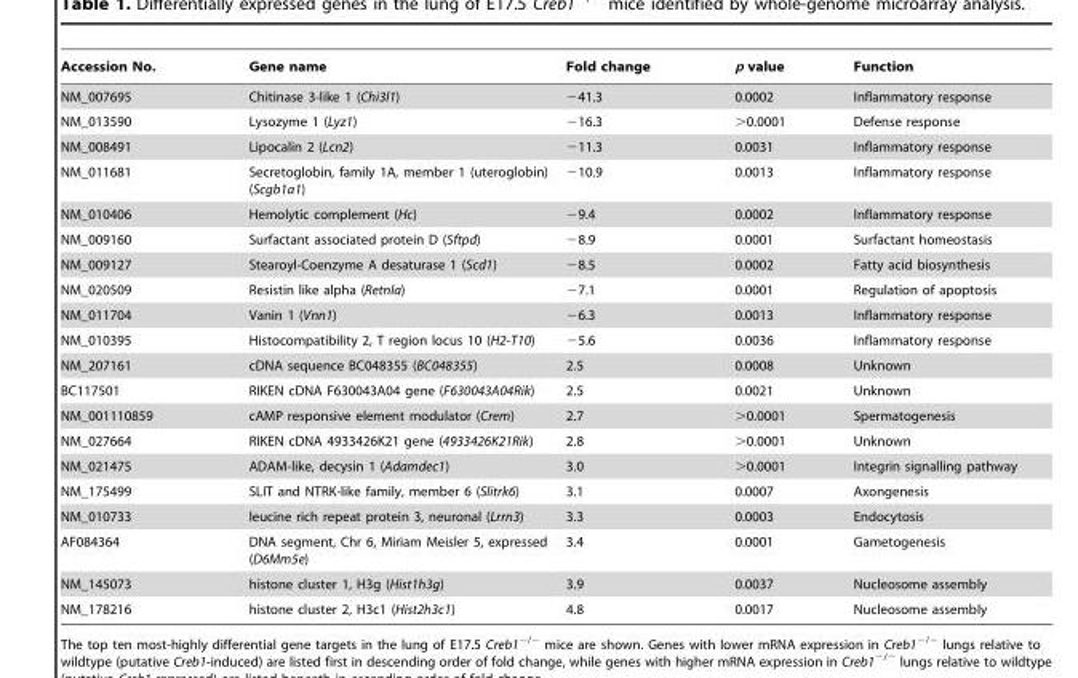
<table><thead><tr><td>Accession No.</td><td>Gene name</td><td>Fold change</td><td>p value</td><td>Function</td></tr></thead><tbody><tr><td>NM_007695</td><td>Chitinase 3-like 1 (Chi3l1)</td><td>−41.3</td><td>0.0002</td><td>Inflammatory response</td></tr><tr><td>NM_013590</td><td>Lysozyme 1 (Lyz1)</td><td>−16.3</td><td>&gt;0.0001</td><td>Defense response</td></tr><tr><td>NM_008491</td><td>Lipocalin 2 (Lcn2)</td><td>−11.3</td><td>0.0031</td><td>Inflammatory response</td></tr><tr><td>NM_011681</td><td>Secretoglobin, family 1A, member 1 (uteroglobin) (Scgb1a1)</td><td>−10.9</td><td>0.0013</td><td>Inflammatory response</td></tr><tr><td>NM_010406</td><td>Hemolytic complement (Hc)</td><td>−9.4</td><td>0.0002</td><td>Inflammatory response</td></tr><tr><td>NM_009160</td><td>Surfactant associated protein D (Sftpd)</td><td>−8.9</td><td>0.0001</td><td>Surfactant homeostasis</td></tr><tr><td>NM_009127</td><td>Stearoyl-Coenzyme A desaturase 1 (Scd1)</td><td>−8.5</td><td>0.0002</td><td>Fatty acid biosynthesis</td></tr><tr><td>NM_020509</td><td>Resistin like alpha (Retnla)</td><td>−7.1</td><td>0.0001</td><td>Regulation of apoptosis</td></tr><tr><td>NM_011704</td><td>Vanin 1 (Vnn1)</td><td>−6.3</td><td>0.0013</td><td>Inflammatory response</td></tr><tr><td>NM_010395</td><td>Histocompatibility 2, T region locus 10 (H2-T10)</td><td>−5.6</td><td>0.0036</td><td>Inflammatory response</td></tr><tr><td>NM_207161</td><td>cDNA sequence BC048355 (BC048355)</td><td>2.5</td><td>0.0008</td><td>Unknown</td></tr><tr><td>BC117501</td><td>RIKEN cDNA F630043A04 gene (F630043A04Rik)</td><td>2.5</td><td>0.0021</td><td>Unknown</td></tr><tr><td>NM_001110859</td><td>cAMP responsive element modulator (Crem)</td><td>2.7</td><td>&gt;0.0001</td><td>Spermatogenesis</td></tr><tr><td>NM_027664</td><td>RIKEN cDNA 4933426K21 gene (4933426K21Rik)</td><td>2.8</td><td>&gt;0.0001</td><td>Unknown</td></tr><tr><td>NM_021475</td><td>ADAM-like, decysin 1 (Adamdec1)</td><td>3.0</td><td>&gt;0.0001</td><td>Integrin signalling pathway</td></tr><tr><td>NM_175499</td><td>SLIT and NTRK-like family, member 6 (Slitrk6)</td><td>3.1</td><td>0.0007</td><td>Axongenesis</td></tr><tr><td>NM_010733</td><td>leucine rich repeat protein 3, neuronal (Lrrn3)</td><td>3.3</td><td>0.0003</td><td>Endocytosis</td></tr><tr><td>AF084364</td><td>DNA segment, Chr 6, Miriam Meisler 5, expressed (D6Mm5e)</td><td>3.4</td><td>0.0001</td><td>Gametogenesis</td></tr><tr><td>NM_145073</td><td>histone cluster 1, H3g (Hist1h3g)</td><td>3.9</td><td>0.0037</td><td>Nucleosome assembly</td></tr><tr><td>NM_178216</td><td>histone cluster 2, H3c1 (Hist2h3c1)</td><td>4.8</td><td>0.0017</td><td>Nucleosome assembly</td></tr></tbody></table>